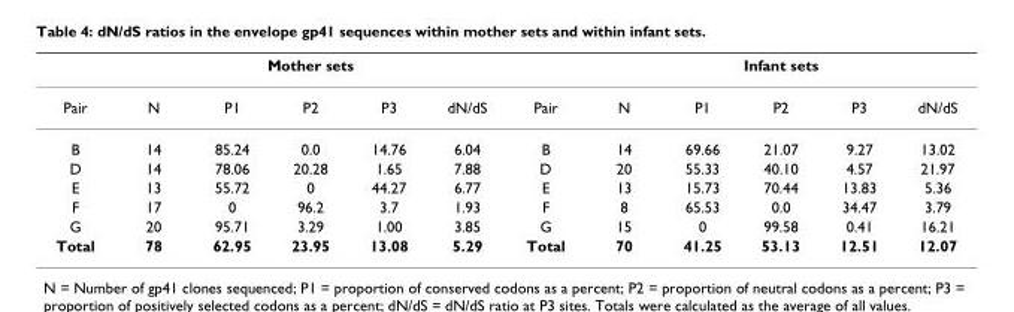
<table><thead><tr><td rowspan="2">Pair</td><td colspan="5">Mother sets</td><td rowspan="2">Pair</td><td colspan="5">Infant sets</td></tr><tr><td>N</td><td>P1</td><td>P2</td><td>P3</td><td>dN/dS</td><td>N</td><td>P1</td><td>P2</td><td>P3</td><td>dN/dS</td></tr></thead><tbody><tr><td>B</td><td>14</td><td>85.24</td><td>0.0</td><td>14.76</td><td>6.04</td><td>B</td><td>14</td><td>69.66</td><td>21.07</td><td>9.27</td><td>13.02</td></tr><tr><td>D</td><td>14</td><td>78.06</td><td>20.28</td><td>1.65</td><td>7.88</td><td>D</td><td>20</td><td>55.33</td><td>40.10</td><td>4.57</td><td>21.97</td></tr><tr><td>E</td><td>13</td><td>55.72</td><td>0</td><td>44.27</td><td>6.77</td><td>E</td><td>13</td><td>15.73</td><td>70.44</td><td>13.83</td><td>5.36</td></tr><tr><td>F</td><td>17</td><td>0</td><td>96.2</td><td>3.7</td><td>1.93</td><td>F</td><td>8</td><td>65.53</td><td>0.0</td><td>34.47</td><td>3.79</td></tr><tr><td>G</td><td>20</td><td>95.71</td><td>3.29</td><td>1.00</td><td>3.85</td><td>G</td><td>15</td><td>0</td><td>99.58</td><td>0.41</td><td>16.21</td></tr><tr><td>Total</td><td>78</td><td>62.95</td><td>23.95</td><td>13.08</td><td>5.29</td><td>Total</td><td>70</td><td>41.25</td><td>53.13</td><td>12.51</td><td>12.07</td></tr></tbody></table>